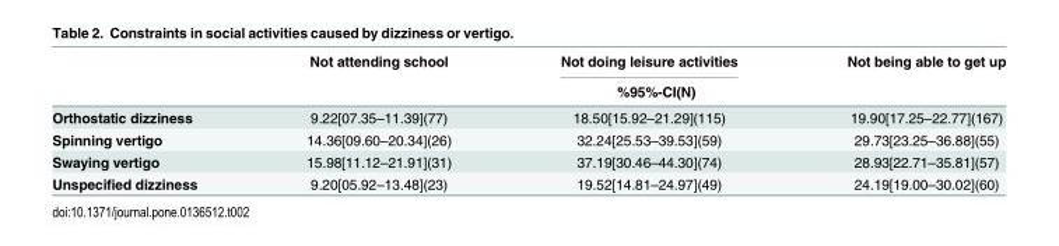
<table><thead><tr><td></td><td>Not attending school</td><td>Not doing leisure activities</td><td>Not being able to get up</td></tr></thead><tbody><tr><td></td><td colspan="3">%95%-CI(N)</td></tr><tr><td>Orthostatic dizziness</td><td>9.22[07.35–11.39](77)</td><td>18.50[15.92–21.29](115)</td><td>19.90[17.25–22.77](167)</td></tr><tr><td>Spinning vertigo</td><td>14.36[09.60–20.34](26)</td><td>32.24[25.53–39.53](59)</td><td>29.73[23.25–36.88](55)</td></tr><tr><td>Swaying vertigo</td><td>15.98[11.12–21.91](31)</td><td>37.19[30.46–44.30](74)</td><td>28.93[22.71–35.81](57)</td></tr><tr><td>Unspecified dizziness</td><td>9.20[05.92–13.48](23)</td><td>19.52[14.81–24.97](49)</td><td>24.19[19.00–30.02](60)</td></tr></tbody></table>